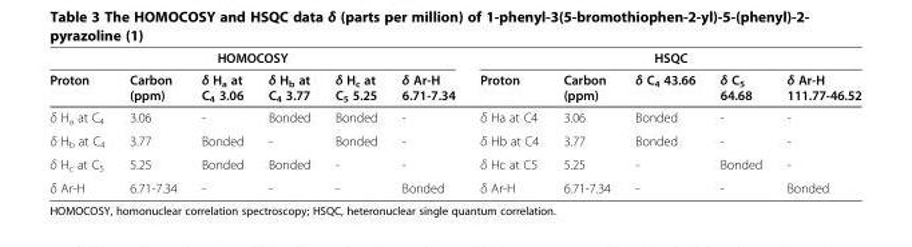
<table><thead><tr><td colspan="6">HOMOCOSY</td><td colspan="5">HSQC</td></tr><tr><td>Proton</td><td>Carbon (ppm)</td><td>δ H<sub>a</sub> at C<sub>4</sub> 3.06</td><td>δ H<sub>b</sub> at C<sub>4</sub> 3.77</td><td>δ H<sub>c</sub> at C<sub>5</sub> 5.25</td><td>δ Ar-H 6.71-7.34</td><td>Proton</td><td>Carbon (ppm)</td><td>δ C<sub>4</sub> 43.66</td><td>δ C<sub>5</sub> 64.68</td><td>δ Ar-H 111.77-46.52</td></tr></thead><tbody><tr><td>δ H<sub>a</sub> at C<sub>4</sub></td><td>3.06</td><td>-</td><td>Bonded</td><td>Bonded</td><td>-</td><td>δ Ha at C4</td><td>3.06</td><td>Bonded</td><td>-</td><td>-</td></tr><tr><td>δ H<sub>b</sub> at C<sub>4</sub></td><td>3.77</td><td>Bonded</td><td>-</td><td>Bonded</td><td>-</td><td>δ Hb at C4</td><td>3.77</td><td>Bonded</td><td>-</td><td>-</td></tr><tr><td>δ H<sub>c</sub> at C<sub>5</sub></td><td>5.25</td><td>Bonded</td><td>Bonded</td><td>-</td><td>-</td><td>δ Hc at C5</td><td>5.25</td><td>-</td><td>Bonded</td><td>-</td></tr><tr><td>δ Ar-H</td><td>6.71-7.34</td><td>-</td><td>-</td><td>-</td><td>Bonded</td><td>δ Ar-H</td><td>6.71-7.34</td><td>-</td><td>-</td><td>Bonded</td></tr></tbody></table>